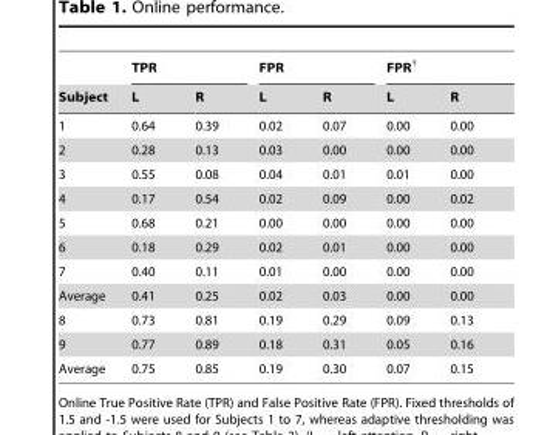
<table><thead><tr><td rowspan="2">Subject</td><td colspan="2">TPR</td><td colspan="2">FPR</td><td colspan="2">FPR†</td></tr><tr><td>L</td><td>R</td><td>L</td><td>R</td><td>L</td><td>R</td></tr></thead><tbody><tr><td>1</td><td>0.64</td><td>0.39</td><td>0.02</td><td>0.07</td><td>0.00</td><td>0.00</td></tr><tr><td>2</td><td>0.28</td><td>0.13</td><td>0.03</td><td>0.00</td><td>0.00</td><td>0.00</td></tr><tr><td>3</td><td>0.55</td><td>0.08</td><td>0.04</td><td>0.01</td><td>0.01</td><td>0.00</td></tr><tr><td>4</td><td>0.17</td><td>0.54</td><td>0.02</td><td>0.09</td><td>0.00</td><td>0.02</td></tr><tr><td>5</td><td>0.68</td><td>0.21</td><td>0.00</td><td>0.00</td><td>0.00</td><td>0.00</td></tr><tr><td>6</td><td>0.18</td><td>0.29</td><td>0.02</td><td>0.01</td><td>0.00</td><td>0.00</td></tr><tr><td>7</td><td>0.40</td><td>0.11</td><td>0.01</td><td>0.00</td><td>0.00</td><td>0.00</td></tr><tr><td>Average</td><td>0.41</td><td>0.25</td><td>0.02</td><td>0.03</td><td>0.00</td><td>0.00</td></tr><tr><td>8</td><td>0.73</td><td>0.81</td><td>0.19</td><td>0.29</td><td>0.09</td><td>0.13</td></tr><tr><td>9</td><td>0.77</td><td>0.89</td><td>0.18</td><td>0.31</td><td>0.05</td><td>0.16</td></tr><tr><td>Average</td><td>0.75</td><td>0.85</td><td>0.19</td><td>0.30</td><td>0.07</td><td>0.15</td></tr></tbody></table>